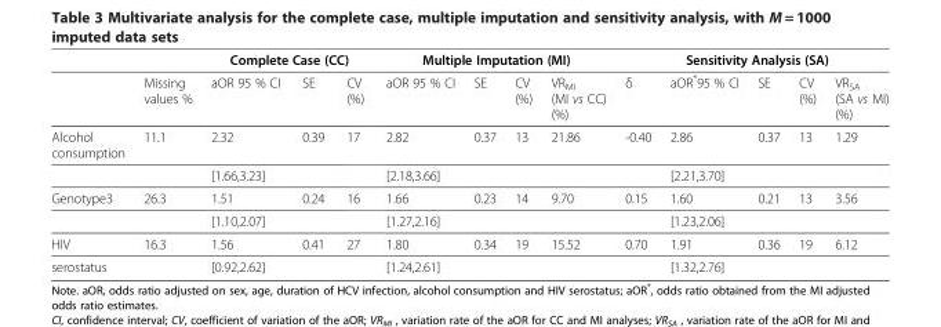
<table><thead><tr><td rowspan="2"></td><td rowspan="2">Missing values %</td><td colspan="3">Complete Case (CC)</td><td colspan="4">Multiple Imputation (MI)</td><td colspan="5">Sensitivity Analysis (SA)</td></tr><tr><td>aOR 95 % CI</td><td>SE</td><td>CV (%)</td><td>aOR 95 % CI</td><td>SE</td><td>CV (%)</td><td>VR<sub>MI</sub> (MI vs CC) (%)</td><td>δ</td><td>aOR*95 % CI</td><td>SE</td><td>CV (%)</td><td>VR<sub>SA</sub> (SA vs MI) (%)</td></tr></thead><tbody><tr><td rowspan="2">Alcohol consumption</td><td>11.1</td><td>2.32</td><td>0.39</td><td>17</td><td>2.82</td><td>0.37</td><td>13</td><td>21.86</td><td>-0.40</td><td>2.86</td><td>0.37</td><td>13</td><td>1.29</td></tr><tr><td></td><td>[1.66,3.23]</td><td></td><td></td><td>[2.18,3.66]</td><td></td><td></td><td></td><td></td><td>[2.21,3.70]</td><td></td><td></td><td></td></tr><tr><td rowspan="2">Genotype3</td><td>26.3</td><td>1.51</td><td>0.24</td><td>16</td><td>1.66</td><td>0.23</td><td>14</td><td>9.70</td><td>0.15</td><td>1.60</td><td>0.21</td><td>13</td><td>3.56</td></tr><tr><td></td><td>[1.10,2.07]</td><td></td><td></td><td>[1.27,2.16]</td><td></td><td></td><td></td><td></td><td>[1.23,2.06]</td><td></td><td></td><td></td></tr><tr><td>HIV</td><td>16.3</td><td>1.56</td><td>0.41</td><td>27</td><td>1.80</td><td>0.34</td><td>19</td><td>15.52</td><td>0.70</td><td>1.91</td><td>0.36</td><td>19</td><td>6.12</td></tr><tr><td>serostatus</td><td></td><td>[0.92,2.62]</td><td></td><td></td><td>[1.24,2.61]</td><td></td><td></td><td></td><td></td><td>[1.32,2.76]</td><td></td><td></td><td></td></tr></tbody></table>